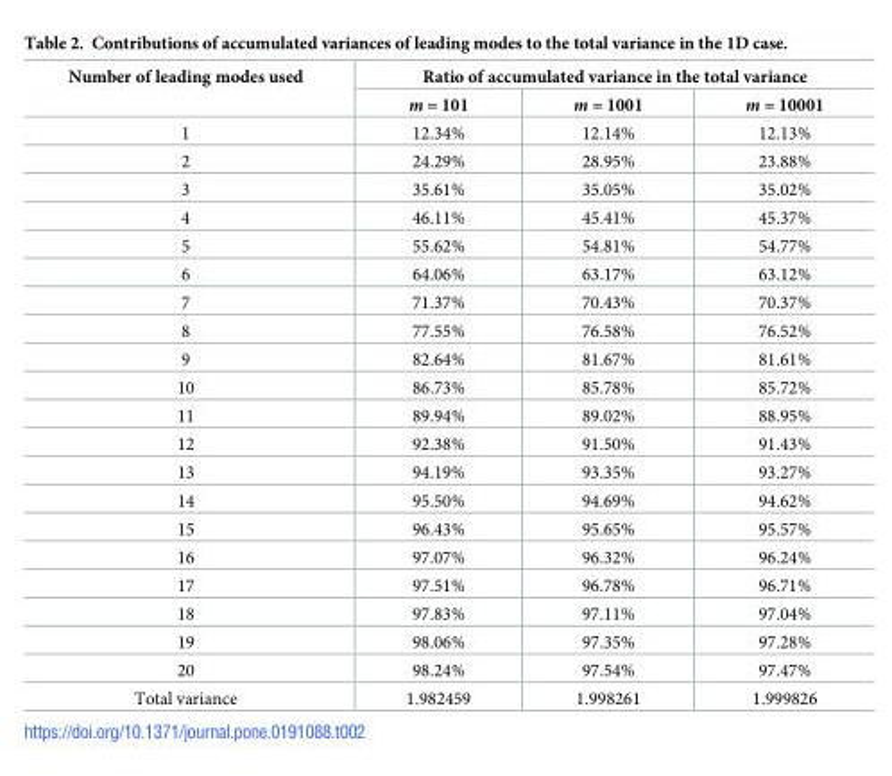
<table><thead><tr><td rowspan="2">Number of leading modes used</td><td colspan="3">Ratio of accumulated variance in the total variance</td></tr><tr><td>m = 101</td><td>m = 1001</td><td>m = 10001</td></tr></thead><tbody><tr><td>1</td><td>12.34%</td><td>12.14%</td><td>12.13%</td></tr><tr><td>2</td><td>24.29%</td><td>28.95%</td><td>23.88%</td></tr><tr><td>3</td><td>35.61%</td><td>35.05%</td><td>35.02%</td></tr><tr><td>4</td><td>46.11%</td><td>45.41%</td><td>45.37%</td></tr><tr><td>5</td><td>55.62%</td><td>54.81%</td><td>54.77%</td></tr><tr><td>6</td><td>64.06%</td><td>63.17%</td><td>63.12%</td></tr><tr><td>7</td><td>71.37%</td><td>70.43%</td><td>70.37%</td></tr><tr><td>8</td><td>77.55%</td><td>76.58%</td><td>76.52%</td></tr><tr><td>9</td><td>82.64%</td><td>81.67%</td><td>81.61%</td></tr><tr><td>10</td><td>86.73%</td><td>85.78%</td><td>85.72%</td></tr><tr><td>11</td><td>89.94%</td><td>89.02%</td><td>88.95%</td></tr><tr><td>12</td><td>92.38%</td><td>91.50%</td><td>91.43%</td></tr><tr><td>13</td><td>94.19%</td><td>93.35%</td><td>93.27%</td></tr><tr><td>14</td><td>95.50%</td><td>94.69%</td><td>94.62%</td></tr><tr><td>15</td><td>96.43%</td><td>95.65%</td><td>95.57%</td></tr><tr><td>16</td><td>97.07%</td><td>96.32%</td><td>96.24%</td></tr><tr><td>17</td><td>97.51%</td><td>96.78%</td><td>96.71%</td></tr><tr><td>18</td><td>97.83%</td><td>97.11%</td><td>97.04%</td></tr><tr><td>19</td><td>98.06%</td><td>97.35%</td><td>97.28%</td></tr><tr><td>20</td><td>98.24%</td><td>97.54%</td><td>97.47%</td></tr><tr><td>Total variance</td><td>1.982459</td><td>1.998261</td><td>1.999826</td></tr></tbody></table>